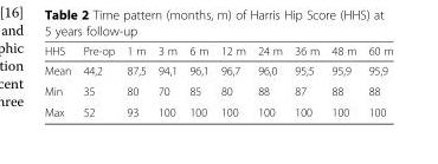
<table><thead><tr><td>HHS</td><td>Pre-op</td><td>1 m</td><td>3 m</td><td>6 m</td><td>12 m</td><td>24 m</td><td>36 m</td><td>48 m</td><td>60 m</td></tr></thead><tbody><tr><td>Mean</td><td>44,2</td><td>87,5</td><td>94,1</td><td>96,1</td><td>96,7</td><td>96,0</td><td>95,5</td><td>95,9</td><td>95,9</td></tr><tr><td>Min</td><td>35</td><td>80</td><td>70</td><td>85</td><td>80</td><td>88</td><td>87</td><td>88</td><td>88</td></tr><tr><td>Max</td><td>52</td><td>93</td><td>100</td><td>100</td><td>100</td><td>100</td><td>100</td><td>100</td><td>100</td></tr></tbody></table>